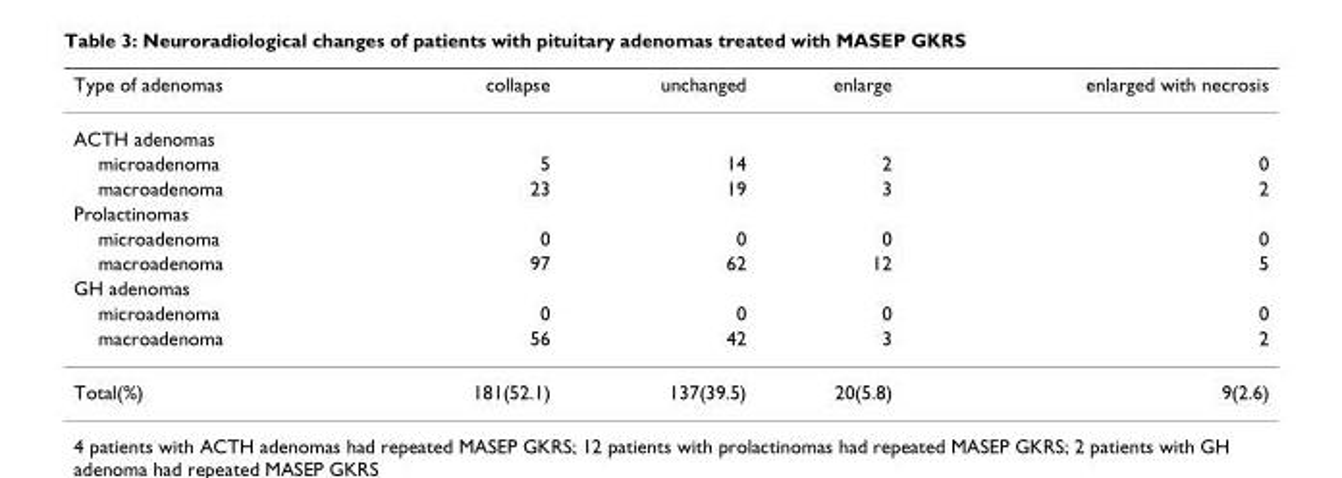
<table><thead><tr><td>Type of adenomas</td><td>collapse</td><td>unchanged</td><td>enlarge</td><td>enlarged with necrosis</td></tr></thead><tbody><tr><td colspan="5">ACTH adenomas</td></tr><tr><td>microadenoma</td><td>5</td><td>14</td><td>2</td><td>0</td></tr><tr><td>macroadenoma</td><td>23</td><td>19</td><td>3</td><td>2</td></tr><tr><td colspan="5">Prolactinomas</td></tr><tr><td>microadenoma</td><td>0</td><td>0</td><td>0</td><td>0</td></tr><tr><td>macroadenoma</td><td>97</td><td>62</td><td>12</td><td>5</td></tr><tr><td colspan="5">GH adenomas</td></tr><tr><td>microadenoma</td><td>0</td><td>0</td><td>0</td><td>0</td></tr><tr><td>macroadenoma</td><td>56</td><td>42</td><td>3</td><td>2</td></tr><tr><td>Total(%)</td><td>181(52.1)</td><td>137(39.5)</td><td>20(5.8)</td><td>9(2.6)</td></tr></tbody></table>